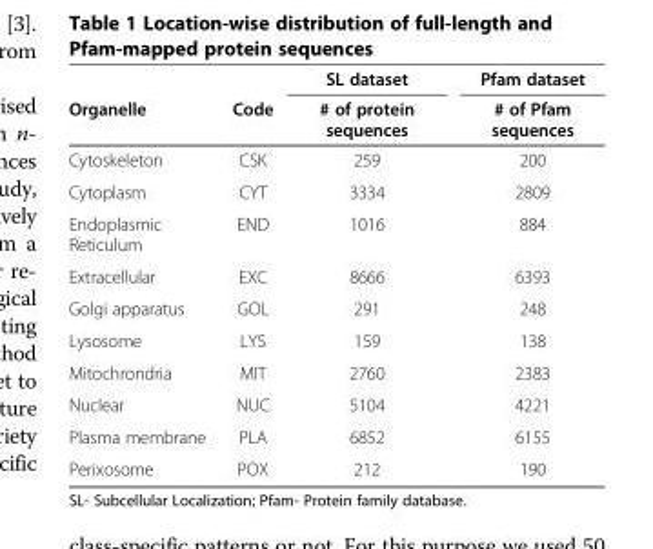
<table><thead><tr><td></td><td></td><td>SL dataset</td><td>Pfam dataset</td></tr></thead><tbody><tr><td>Organelle</td><td>Code</td><td># of protein sequences</td><td># of Pfam sequences</td></tr><tr><td>Cytoskeleton</td><td>CSK</td><td>259</td><td>200</td></tr><tr><td>Cytoplasm</td><td>CYT</td><td>3334</td><td>2809</td></tr><tr><td>Endoplasmic Reticulum</td><td>END</td><td>1016</td><td>884</td></tr><tr><td>Extracellular</td><td>EXC</td><td>8666</td><td>6393</td></tr><tr><td>Golgi apparatus</td><td>GOL</td><td>291</td><td>248</td></tr><tr><td>Lysosome</td><td>LYS</td><td>159</td><td>138</td></tr><tr><td>Mitochrondria</td><td>MIT</td><td>2760</td><td>2383</td></tr><tr><td>Nuclear</td><td>NUC</td><td>5104</td><td>4221</td></tr><tr><td>Plasma membrane</td><td>PLA</td><td>6852</td><td>6155</td></tr><tr><td>Perixosome</td><td>POX</td><td>212</td><td>190</td></tr></tbody></table>